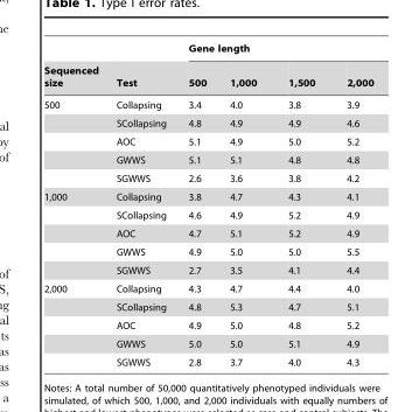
<table><thead><tr><td rowspan="2">Sequenced size</td><td rowspan="2">Test</td><td colspan="4">Gene length</td></tr><tr><td>500</td><td>1,000</td><td>1,500</td><td>2,000</td></tr></thead><tbody><tr><td rowspan="5">500</td><td>Collapsing</td><td>3.4</td><td>4.0</td><td>3.8</td><td>3.9</td></tr><tr><td>SCollapsing</td><td>4.8</td><td>4.9</td><td>4.9</td><td>4.6</td></tr><tr><td>AOC</td><td>5.1</td><td>4.9</td><td>5.0</td><td>5.2</td></tr><tr><td>GWWS</td><td>5.1</td><td>5.1</td><td>4.8</td><td>4.8</td></tr><tr><td>SGWWS</td><td>2.6</td><td>3.6</td><td>3.8</td><td>4.2</td></tr><tr><td rowspan="5">1,000</td><td>Collapsing</td><td>3.8</td><td>4.7</td><td>4.3</td><td>4.1</td></tr><tr><td>SCollapsing</td><td>4.6</td><td>4.9</td><td>5.2</td><td>4.9</td></tr><tr><td>AOC</td><td>4.7</td><td>5.1</td><td>5.2</td><td>4.9</td></tr><tr><td>GWWS</td><td>4.9</td><td>5.0</td><td>5.0</td><td>5.5</td></tr><tr><td>SGWWS</td><td>2.7</td><td>3.5</td><td>4.1</td><td>4.4</td></tr><tr><td rowspan="5">2,000</td><td>Collapsing</td><td>4.3</td><td>4.7</td><td>4.4</td><td>4.0</td></tr><tr><td>SCollapsing</td><td>4.8</td><td>5.3</td><td>4.7</td><td>5.1</td></tr><tr><td>AOC</td><td>4.9</td><td>5.0</td><td>4.8</td><td>5.2</td></tr><tr><td>GWWS</td><td>5.0</td><td>5.0</td><td>5.1</td><td>4.9</td></tr><tr><td>SGWWS</td><td>2.8</td><td>3.7</td><td>4.0</td><td>4.3</td></tr></tbody></table>